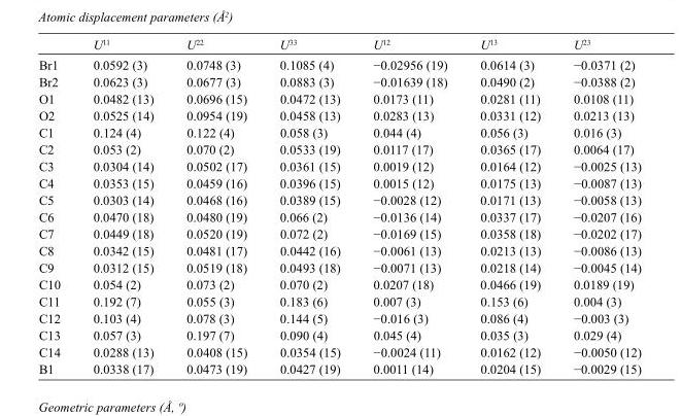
<table><thead><tr><td></td><td>U<sup>11</sup></td><td>U<sup>22</sup></td><td>U<sup>33</sup></td><td>U<sup>12</sup></td><td>U<sup>13</sup></td><td>U<sup>23</sup></td></tr></thead><tbody><tr><td>Br1</td><td>0.0592 (3)</td><td>0.0748 (3)</td><td>0.1085 (4)</td><td>−0.02956 (19)</td><td>0.0614 (3)</td><td>−0.0371 (2)</td></tr><tr><td>Br2</td><td>0.0623 (3)</td><td>0.0677 (3)</td><td>0.0883 (3)</td><td>−0.01639 (18)</td><td>0.0490 (2)</td><td>−0.0388 (2)</td></tr><tr><td>O1</td><td>0.0482 (13)</td><td>0.0696 (15)</td><td>0.0472 (13)</td><td>0.0173 (11)</td><td>0.0281 (11)</td><td>0.0108 (11)</td></tr><tr><td>O2</td><td>0.0525 (14)</td><td>0.0954 (19)</td><td>0.0458 (13)</td><td>0.0283 (13)</td><td>0.0331 (12)</td><td>0.0213 (13)</td></tr><tr><td>C1</td><td>0.124 (4)</td><td>0.122 (4)</td><td>0.058 (3)</td><td>0.044 (4)</td><td>0.056 (3)</td><td>0.016 (3)</td></tr><tr><td>C2</td><td>0.053 (2)</td><td>0.070 (2)</td><td>0.0533 (19)</td><td>0.0117 (17)</td><td>0.0365 (17)</td><td>0.0064 (17)</td></tr><tr><td>C3</td><td>0.0304 (14)</td><td>0.0502 (17)</td><td>0.0361 (15)</td><td>0.0019 (12)</td><td>0.0164 (12)</td><td>−0.0025 (13)</td></tr><tr><td>C4</td><td>0.0353 (15)</td><td>0.0459 (16)</td><td>0.0396 (15)</td><td>0.0015 (12)</td><td>0.0175 (13)</td><td>−0.0087 (13)</td></tr><tr><td>C5</td><td>0.0303 (14)</td><td>0.0468 (16)</td><td>0.0389 (15)</td><td>−0.0028 (12)</td><td>0.0171 (13)</td><td>−0.0058 (13)</td></tr><tr><td>C6</td><td>0.0470 (18)</td><td>0.0480 (19)</td><td>0.066 (2)</td><td>−0.0136 (14)</td><td>0.0337 (17)</td><td>−0.0207 (16)</td></tr><tr><td>C7</td><td>0.0449 (18)</td><td>0.0520 (19)</td><td>0.072 (2)</td><td>−0.0169 (15)</td><td>0.0358 (18)</td><td>−0.0202 (17)</td></tr><tr><td>C8</td><td>0.0342 (15)</td><td>0.0481 (17)</td><td>0.0442 (16)</td><td>−0.0061 (13)</td><td>0.0213 (13)</td><td>−0.0086 (13)</td></tr><tr><td>C9</td><td>0.0312 (15)</td><td>0.0519 (18)</td><td>0.0493 (18)</td><td>−0.0071 (13)</td><td>0.0218 (14)</td><td>−0.0045 (14)</td></tr><tr><td>C10</td><td>0.054 (2)</td><td>0.073 (2)</td><td>0.070 (2)</td><td>0.0207 (18)</td><td>0.0466 (19)</td><td>0.0189 (19)</td></tr><tr><td>C11</td><td>0.192 (7)</td><td>0.055 (3)</td><td>0.183 (6)</td><td>0.007 (3)</td><td>0.153 (6)</td><td>0.004 (3)</td></tr><tr><td>C12</td><td>0.103 (4)</td><td>0.078 (3)</td><td>0.144 (5)</td><td>−0.016 (3)</td><td>0.086 (4)</td><td>−0.003 (3)</td></tr><tr><td>C13</td><td>0.057 (3)</td><td>0.197 (7)</td><td>0.090 (4)</td><td>0.045 (4)</td><td>0.035 (3)</td><td>0.029 (4)</td></tr><tr><td>C14</td><td>0.0288 (13)</td><td>0.0408 (15)</td><td>0.0354 (15)</td><td>−0.0024 (11)</td><td>0.0162 (12)</td><td>−0.0050 (12)</td></tr><tr><td>B1</td><td>0.0338 (17)</td><td>0.0473 (19)</td><td>0.0427 (19)</td><td>0.0011 (14)</td><td>0.0204 (15)</td><td>−0.0029 (15)</td></tr></tbody></table>